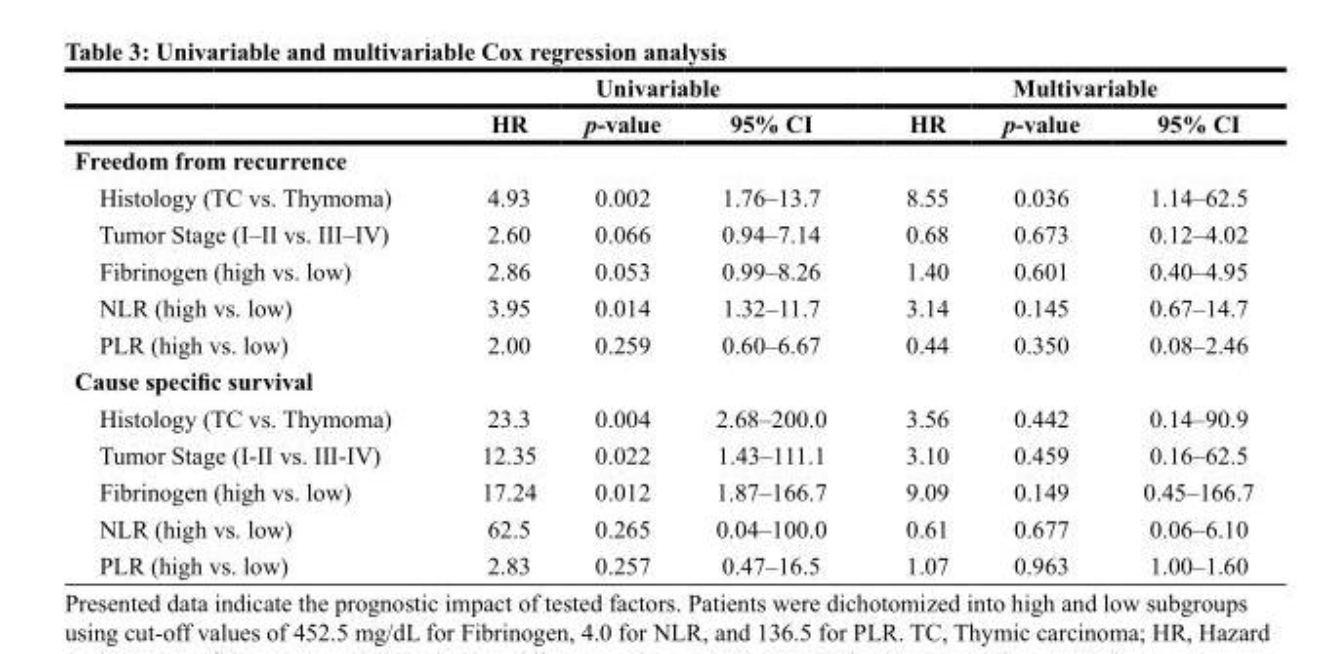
<table><thead><tr><td rowspan="2"></td><td colspan="3">Univariable</td><td colspan="3">Multivariable</td></tr><tr><td>HR</td><td>p-value</td><td>95% CI</td><td>HR</td><td>p-value</td><td>95% CI</td></tr></thead><tbody><tr><td colspan="7">Freedom from recurrence</td></tr><tr><td>Histology (TC vs. Thymoma)</td><td>4.93</td><td>0.002</td><td>1.76–13.7</td><td>8.55</td><td>0.036</td><td>1.14–62.5</td></tr><tr><td>Tumor Stage (I–II vs. III–IV)</td><td>2.60</td><td>0.066</td><td>0.94–7.14</td><td>0.68</td><td>0.673</td><td>0.12–4.02</td></tr><tr><td>Fibrinogen (high vs. low)</td><td>2.86</td><td>0.053</td><td>0.99–8.26</td><td>1.40</td><td>0.601</td><td>0.40–4.95</td></tr><tr><td>NLR (high vs. low)</td><td>3.95</td><td>0.014</td><td>1.32–11.7</td><td>3.14</td><td>0.145</td><td>0.67–14.7</td></tr><tr><td>PLR (high vs. low)</td><td>2.00</td><td>0.259</td><td>0.60–6.67</td><td>0.44</td><td>0.350</td><td>0.08–2.46</td></tr><tr><td colspan="7">Cause specific survival</td></tr><tr><td>Histology (TC vs. Thymoma)</td><td>23.3</td><td>0.004</td><td>2.68–200.0</td><td>3.56</td><td>0.442</td><td>0.14–90.9</td></tr><tr><td>Tumor Stage (I-II vs. III-IV)</td><td>12.35</td><td>0.022</td><td>1.43–111.1</td><td>3.10</td><td>0.459</td><td>0.16–62.5</td></tr><tr><td>Fibrinogen (high vs. low)</td><td>17.24</td><td>0.012</td><td>1.87–166.7</td><td>9.09</td><td>0.149</td><td>0.45–166.7</td></tr><tr><td>NLR (high vs. low)</td><td>62.5</td><td>0.265</td><td>0.04–100.0</td><td>0.61</td><td>0.677</td><td>0.06–6.10</td></tr><tr><td>PLR (high vs. low)</td><td>2.83</td><td>0.257</td><td>0.47–16.5</td><td>1.07</td><td>0.963</td><td>1.00–1.60</td></tr></tbody></table>